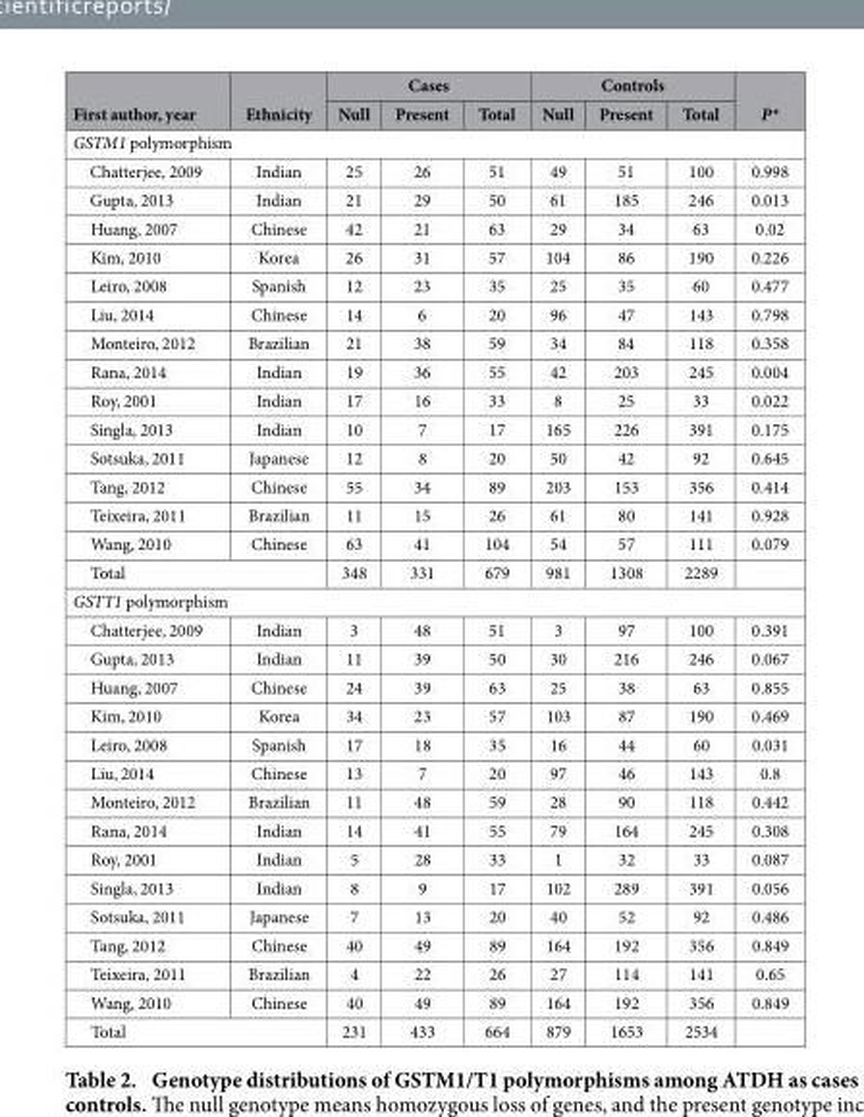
<table><thead><tr><td rowspan="2">First author, year</td><td rowspan="2">Ethnicity</td><td colspan="3">Cases</td><td colspan="3">Controls</td><td rowspan="2">P*</td></tr><tr><td>Null</td><td>Present</td><td>Total</td><td>Null</td><td>Present</td><td>Total</td></tr></thead><tbody><tr><td colspan="9">GSTM1 polymorphism</td></tr><tr><td>Chatterjee, 2009</td><td>Indian</td><td>25</td><td>26</td><td>51</td><td>49</td><td>51</td><td>100</td><td>0.998</td></tr><tr><td>Gupta, 2013</td><td>Indian</td><td>21</td><td>29</td><td>50</td><td>61</td><td>185</td><td>246</td><td>0.013</td></tr><tr><td>Huang, 2007</td><td>Chinese</td><td>42</td><td>21</td><td>63</td><td>29</td><td>34</td><td>63</td><td>0.02</td></tr><tr><td>Kim, 2010</td><td>Korea</td><td>26</td><td>31</td><td>57</td><td>104</td><td>86</td><td>190</td><td>0.226</td></tr><tr><td>Leiro, 2008</td><td>Spanish</td><td>12</td><td>23</td><td>35</td><td>25</td><td>35</td><td>60</td><td>0.477</td></tr><tr><td>Liu, 2014</td><td>Chinese</td><td>14</td><td>6</td><td>20</td><td>96</td><td>47</td><td>143</td><td>0.798</td></tr><tr><td>Monteiro, 2012</td><td>Brazilian</td><td>21</td><td>38</td><td>59</td><td>34</td><td>84</td><td>118</td><td>0.358</td></tr><tr><td>Rana, 2014</td><td>Indian</td><td>19</td><td>36</td><td>55</td><td>42</td><td>203</td><td>245</td><td>0.004</td></tr><tr><td>Roy, 2001</td><td>Indian</td><td>17</td><td>16</td><td>33</td><td>8</td><td>25</td><td>33</td><td>0.022</td></tr><tr><td>Singla, 2013</td><td>Indian</td><td>10</td><td>7</td><td>17</td><td>165</td><td>226</td><td>391</td><td>0.175</td></tr><tr><td>Sotsuka, 2011</td><td>Japanese</td><td>12</td><td>8</td><td>20</td><td>50</td><td>42</td><td>92</td><td>0.645</td></tr><tr><td>Tang, 2012</td><td>Chinese</td><td>55</td><td>34</td><td>89</td><td>203</td><td>153</td><td>356</td><td>0.414</td></tr><tr><td>Teixeira, 2011</td><td>Brazilian</td><td>11</td><td>15</td><td>26</td><td>61</td><td>80</td><td>141</td><td>0.928</td></tr><tr><td>Wang, 2010</td><td>Chinese</td><td>63</td><td>41</td><td>104</td><td>54</td><td>57</td><td>111</td><td>0.079</td></tr><tr><td colspan="2">Total</td><td>348</td><td>331</td><td>679</td><td>981</td><td>1308</td><td>2289</td><td></td></tr><tr><td colspan="9">GSTT1 polymorphism</td></tr><tr><td>Chatterjee, 2009</td><td>Indian</td><td>3</td><td>48</td><td>51</td><td>3</td><td>97</td><td>100</td><td>0.391</td></tr><tr><td>Gupta, 2013</td><td>Indian</td><td>11</td><td>39</td><td>50</td><td>30</td><td>216</td><td>246</td><td>0.067</td></tr><tr><td>Huang, 2007</td><td>Chinese</td><td>24</td><td>39</td><td>63</td><td>25</td><td>38</td><td>63</td><td>0.855</td></tr><tr><td>Kim, 2010</td><td>Korea</td><td>34</td><td>23</td><td>57</td><td>103</td><td>87</td><td>190</td><td>0.469</td></tr><tr><td>Leiro, 2008</td><td>Spanish</td><td>17</td><td>18</td><td>35</td><td>16</td><td>44</td><td>60</td><td>0.031</td></tr><tr><td>Liu, 2014</td><td>Chinese</td><td>13</td><td>7</td><td>20</td><td>97</td><td>46</td><td>143</td><td>0.8</td></tr><tr><td>Monteiro, 2012</td><td>Brazilian</td><td>11</td><td>48</td><td>59</td><td>28</td><td>90</td><td>118</td><td>0.442</td></tr><tr><td>Rana, 2014</td><td>Indian</td><td>14</td><td>41</td><td>55</td><td>79</td><td>164</td><td>245</td><td>0.308</td></tr><tr><td>Roy, 2001</td><td>Indian</td><td>5</td><td>28</td><td>33</td><td>1</td><td>32</td><td>33</td><td>0.087</td></tr><tr><td>Singla, 2013</td><td>Indian</td><td>8</td><td>9</td><td>17</td><td>102</td><td>289</td><td>391</td><td>0.056</td></tr><tr><td>Sotsuka, 2011</td><td>Japanese</td><td>7</td><td>13</td><td>20</td><td>40</td><td>52</td><td>92</td><td>0.486</td></tr><tr><td>Tang, 2012</td><td>Chinese</td><td>40</td><td>49</td><td>89</td><td>164</td><td>192</td><td>356</td><td>0.849</td></tr><tr><td>Teixeira, 2011</td><td>Brazilian</td><td>4</td><td>22</td><td>26</td><td>27</td><td>114</td><td>141</td><td>0.65</td></tr><tr><td>Wang, 2010</td><td>Chinese</td><td>40</td><td>49</td><td>89</td><td>164</td><td>192</td><td>356</td><td>0.849</td></tr><tr><td colspan="2">Total</td><td>231</td><td>433</td><td>664</td><td>879</td><td>1653</td><td>2534</td><td></td></tr></tbody></table>